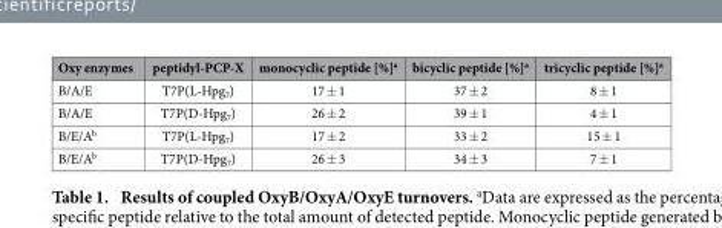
<table><thead><tr><td>Oxy enzymes</td><td>peptidyl-PCP-X</td><td>monocyclic peptide [%]<sup>a</sup></td><td>bicyclic peptide [%]<sup>a</sup></td><td>tricyclic peptide [%]<sup>a</sup></td></tr></thead><tbody><tr><td>B/A/E</td><td>T7P(L-Hpg<sub>7</sub>)</td><td>17 ± 1</td><td>37 ± 2</td><td>8 ± 1</td></tr><tr><td>B/A/E</td><td>T7P(D-Hpg<sub>7</sub>)</td><td>26 ± 2</td><td>39 ± 1</td><td>4 ± 1</td></tr><tr><td>B/E/A<sup>b</sup></td><td>T7P(L-Hpg<sub>7</sub>)</td><td>17 ± 2</td><td>33 ± 2</td><td>15 ± 1</td></tr><tr><td>B/E/A<sup>b</sup></td><td>T7P(D-Hpg<sub>7</sub>)</td><td>26 ± 3</td><td>34 ± 3</td><td>7 ± 1</td></tr></tbody></table>